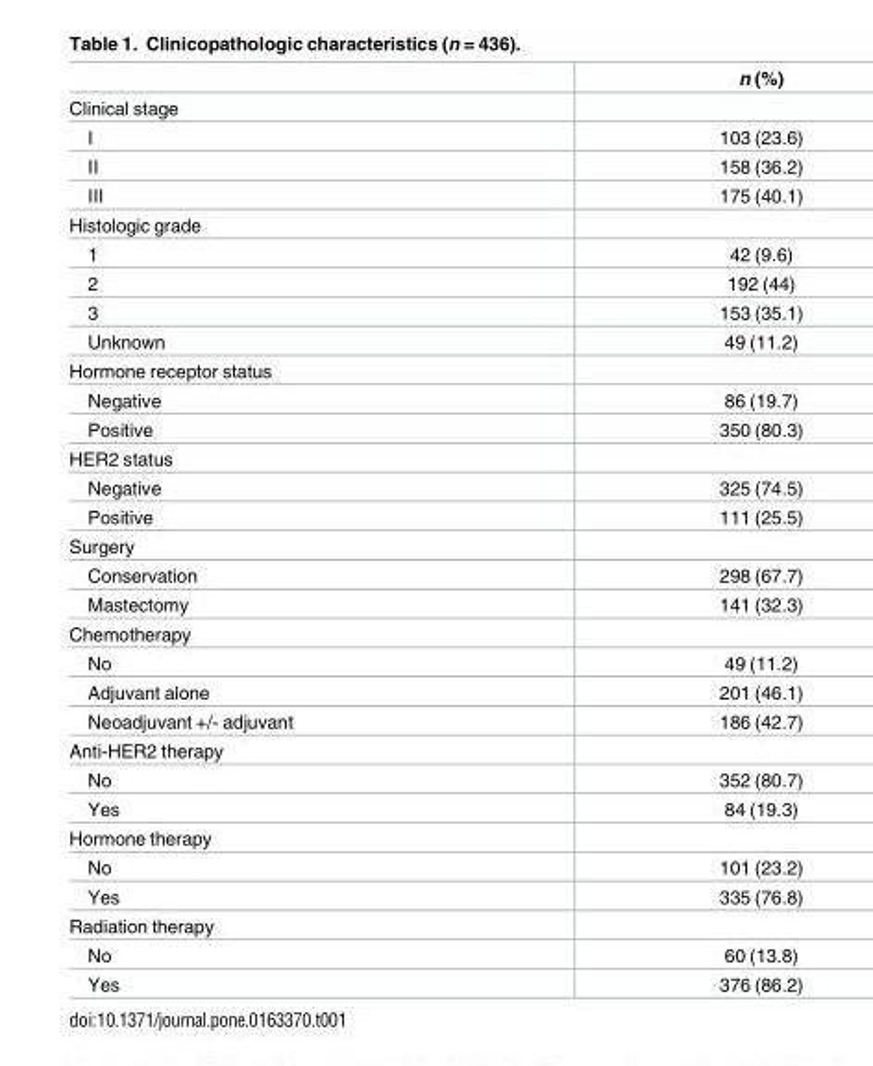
<table><thead><tr><td></td><td>n (%)</td></tr></thead><tbody><tr><td colspan="2">Clinical stage</td></tr><tr><td>I</td><td>103 (23.6)</td></tr><tr><td>II</td><td>158 (36.2)</td></tr><tr><td>III</td><td>175 (40.1)</td></tr><tr><td colspan="2">Histologic grade</td></tr><tr><td>1</td><td>42 (9.6)</td></tr><tr><td>2</td><td>192 (44)</td></tr><tr><td>3</td><td>153 (35.1)</td></tr><tr><td>Unknown</td><td>49 (11.2)</td></tr><tr><td colspan="2">Hormone receptor status</td></tr><tr><td>Negative</td><td>86 (19.7)</td></tr><tr><td>Positive</td><td>350 (80.3)</td></tr><tr><td colspan="2">HER2 status</td></tr><tr><td>Negative</td><td>325 (74.5)</td></tr><tr><td>Positive</td><td>111 (25.5)</td></tr><tr><td colspan="2">Surgery</td></tr><tr><td>Conservation</td><td>298 (67.7)</td></tr><tr><td>Mastectomy</td><td>141 (32.3)</td></tr><tr><td colspan="2">Chemotherapy</td></tr><tr><td>No</td><td>49 (11.2)</td></tr><tr><td>Adjuvant alone</td><td>201 (46.1)</td></tr><tr><td>Neoadjuvant +/- adjuvant</td><td>186 (42.7)</td></tr><tr><td colspan="2">Anti-HER2 therapy</td></tr><tr><td>No</td><td>352 (80.7)</td></tr><tr><td>Yes</td><td>84 (19.3)</td></tr><tr><td colspan="2">Hormone therapy</td></tr><tr><td>No</td><td>101 (23.2)</td></tr><tr><td>Yes</td><td>335 (76.8)</td></tr><tr><td colspan="2">Radiation therapy</td></tr><tr><td>No</td><td>60 (13.8)</td></tr><tr><td>Yes</td><td>376 (86.2)</td></tr></tbody></table>